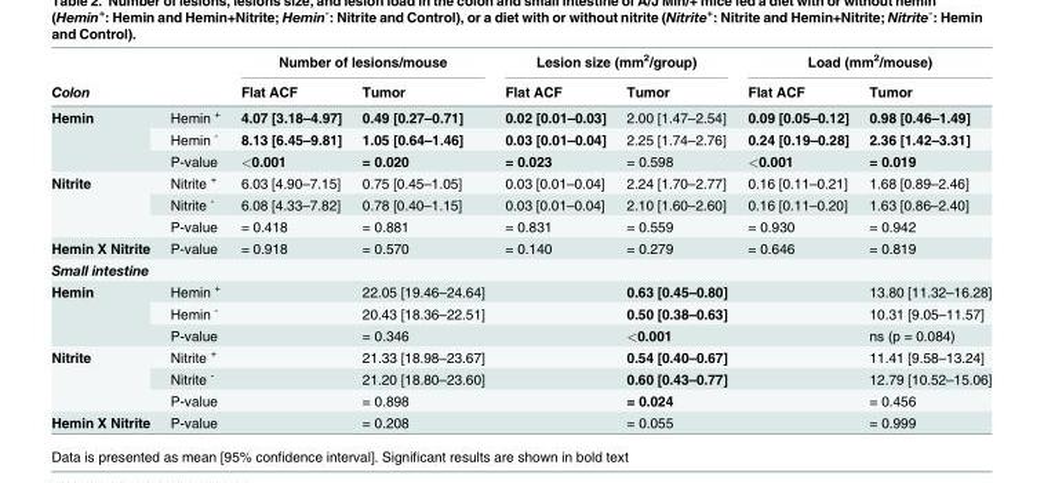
<table><thead><tr><td rowspan="2">Colon</td><td rowspan="2"></td><td colspan="2">Number of lesions/mouse</td><td colspan="2">Lesion size (mm<sup>2</sup>/group)</td><td colspan="2">Load (mm<sup>2</sup>/mouse)</td></tr><tr><td>Flat ACF</td><td>Tumor</td><td>Flat ACF</td><td>Tumor</td><td>Flat ACF</td><td>Tumor</td></tr></thead><tbody><tr><td rowspan="3">Hemin</td><td>Hemin <sup>+</sup></td><td>4.07 [3.18–4.97]</td><td>0.49 [0.27–0.71]</td><td>0.02 [0.01–0.03]</td><td>2.00 [1.47–2.54]</td><td>0.09 [0.05–0.12]</td><td>0.98 [0.46–1.49]</td></tr><tr><td>Hemin <sup>-</sup></td><td>8.13 [6.45–9.81]</td><td>1.05 [0.64–1.46]</td><td>0.03 [0.01–0.04]</td><td>2.25 [1.74–2.76]</td><td>0.24 [0.19–0.28]</td><td>2.36 [1.42–3.31]</td></tr><tr><td>P-value</td><td>&lt;0.001</td><td>= 0.020</td><td>= 0.023</td><td>= 0.598</td><td>&lt;0.001</td><td>= 0.019</td></tr><tr><td rowspan="3">Nitrite</td><td>Nitrite <sup>+</sup></td><td>6.03 [4.90–7.15]</td><td>0.75 [0.45–1.05]</td><td>0.03 [0.01–0.04]</td><td>2.24 [1.70–2.77]</td><td>0.16 [0.11–0.21]</td><td>1.68 [0.89–2.46]</td></tr><tr><td>Nitrite <sup>-</sup></td><td>6.08 [4.33–7.82]</td><td>0.78 [0.40–1.15]</td><td>0.03 [0.01–0.04]</td><td>2.10 [1.60–2.60]</td><td>0.16 [0.11–0.20]</td><td>1.63 [0.86–2.40]</td></tr><tr><td>P-value</td><td>= 0.418</td><td>= 0.881</td><td>= 0.831</td><td>= 0.559</td><td>= 0.930</td><td>= 0.942</td></tr><tr><td>Hemin X Nitrite</td><td>P-value</td><td>= 0.918</td><td>= 0.570</td><td>= 0.140</td><td>= 0.279</td><td>= 0.646</td><td>= 0.819</td></tr><tr><td colspan="8">Small intestine</td></tr><tr><td rowspan="3">Hemin</td><td>Hemin <sup>+</sup></td><td></td><td>22.05 [19.46–24.64]</td><td></td><td>0.63 [0.45–0.80]</td><td></td><td>13.80 [11.32–16.28]</td></tr><tr><td>Hemin <sup>-</sup></td><td></td><td>20.43 [18.36–22.51]</td><td></td><td>0.50 [0.38–0.63]</td><td></td><td>10.31 [9.05–11.57]</td></tr><tr><td>P-value</td><td></td><td>= 0.346</td><td></td><td>&lt;0.001</td><td></td><td>ns (p = 0.084)</td></tr><tr><td rowspan="3">Nitrite</td><td>Nitrite <sup>+</sup></td><td></td><td>21.33 [18.98–23.67]</td><td></td><td>0.54 [0.40–0.67]</td><td></td><td>11.41 [9.58–13.24]</td></tr><tr><td>Nitrite <sup>-</sup></td><td></td><td>21.20 [18.80–23.60]</td><td></td><td>0.60 [0.43–0.77]</td><td></td><td>12.79 [10.52–15.06]</td></tr><tr><td>P-value</td><td></td><td>= 0.898</td><td></td><td>= 0.024</td><td></td><td>= 0.456</td></tr><tr><td>Hemin X Nitrite</td><td>P-value</td><td></td><td>= 0.208</td><td></td><td>= 0.055</td><td></td><td>= 0.999</td></tr></tbody></table>